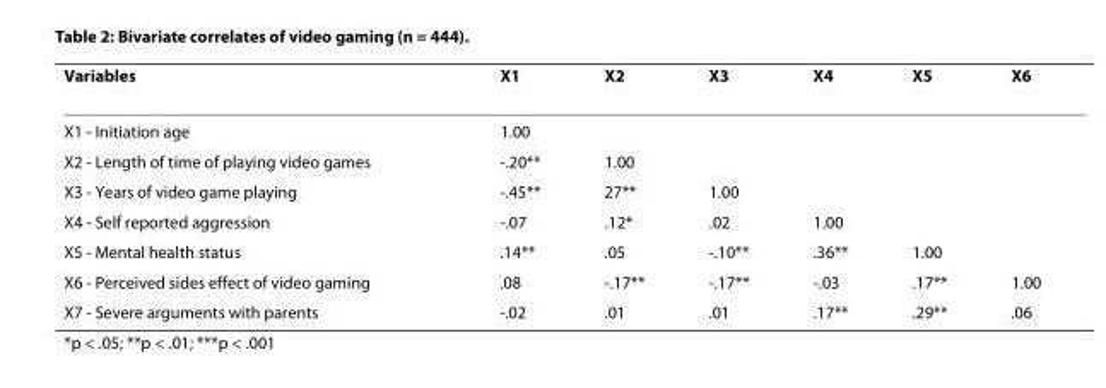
<table><thead><tr><td>Variables</td><td>X1</td><td>X2</td><td>X3</td><td>X4</td><td>X5</td><td>X6</td></tr></thead><tbody><tr><td>X1 - Initiation age</td><td>1.00</td><td></td><td></td><td></td><td></td><td></td></tr><tr><td>X2 - Length of time of playing video games</td><td>-.20**</td><td>1.00</td><td></td><td></td><td></td><td></td></tr><tr><td>X3 - Years of video game playing</td><td>-.45**</td><td>27**</td><td>1.00</td><td></td><td></td><td></td></tr><tr><td>X4 - Self reported aggression</td><td>-.07</td><td>.12*</td><td>.02</td><td>1.00</td><td></td><td></td></tr><tr><td>X5 - Mental health status</td><td>.14**</td><td>.05</td><td>-.10**</td><td>.36**</td><td>1.00</td><td></td></tr><tr><td>X6 - Perceived sides effect of video gaming</td><td>.08</td><td>-.17**</td><td>-.17**</td><td>-.03</td><td>.17**</td><td>1.00</td></tr><tr><td>X7 - Severe arguments with parents</td><td>-.02</td><td>.01</td><td>.01</td><td>.17**</td><td>.29**</td><td>.06</td></tr></tbody></table>